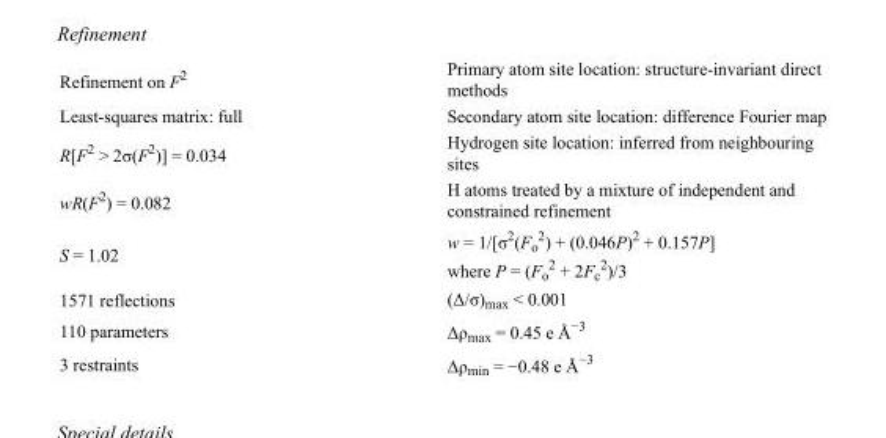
<table><tbody><tr><td>Refinement on F<sup>2</sup></td><td>Primary atom site location: structure-invariant direct methods</td></tr><tr><td>Least-squares matrix: full</td><td>Secondary atom site location: difference Fourier map</td></tr><tr><td>R[F<sup>2</sup> &gt; 2σ(F<sup>2</sup>)] = 0.034</td><td>Hydrogen site location: inferred from neighbouring sites</td></tr><tr><td>wR(F<sup>2</sup>) = 0.082</td><td>H atoms treated by a mixture of independent and constrained refinement</td></tr><tr><td>S = 1.02</td><td>w = 1/[σ<sup>2</sup>(F<sub>o</sub> <sup>2</sup>) + (0.046P)<sup>2</sup> + 0.157P] where P = (F<sub>o</sub> <sup>2</sup> + 2F<sub>c</sub> <sup>2</sup>)/3</td></tr><tr><td>1571 reflections</td><td>(Δ/σ)<sub>max</sub> &lt; 0.001</td></tr><tr><td>110 parameters</td><td>Δρ<sub>max</sub> = 0.45 e Å<sup>−3</sup></td></tr><tr><td>3 restraints</td><td>Δρ<sub>min</sub> = −0.48 e Å<sup>−3</sup></td></tr></tbody></table>